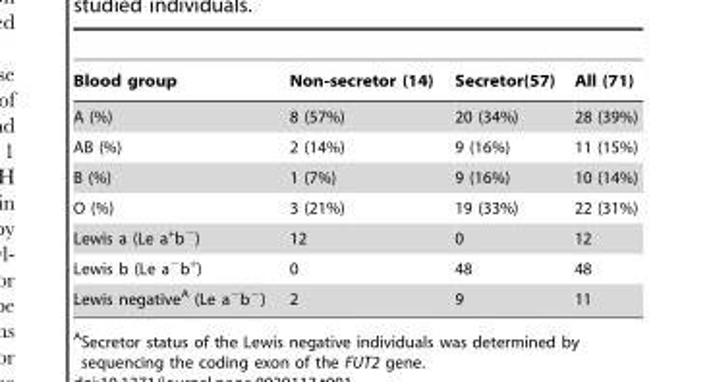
<table><thead><tr><td>Blood group</td><td>Non-secretor (14)</td><td>Secretor(57)</td><td>All (71)</td></tr></thead><tbody><tr><td>A (%)</td><td>8 (57%)</td><td>20 (34%)</td><td>28 (39%)</td></tr><tr><td>AB (%)</td><td>2 (14%)</td><td>9 (16%)</td><td>11 (15%)</td></tr><tr><td>B (%)</td><td>1 (7%)</td><td>9 (16%)</td><td>10 (14%)</td></tr><tr><td>O (%)</td><td>3 (21%)</td><td>19 (33%)</td><td>22 (31%)</td></tr><tr><td>Lewis a (Le a<sup>+</sup>b<sup>−</sup>)</td><td>12</td><td>0</td><td>12</td></tr><tr><td>Lewis b (Le a<sup>−</sup>b<sup>+</sup>)</td><td>0</td><td>48</td><td>48</td></tr><tr><td>Lewis negative<sup>A</sup> (Le a<sup>−</sup>b<sup>−</sup>)</td><td>2</td><td>9</td><td>11</td></tr></tbody></table>